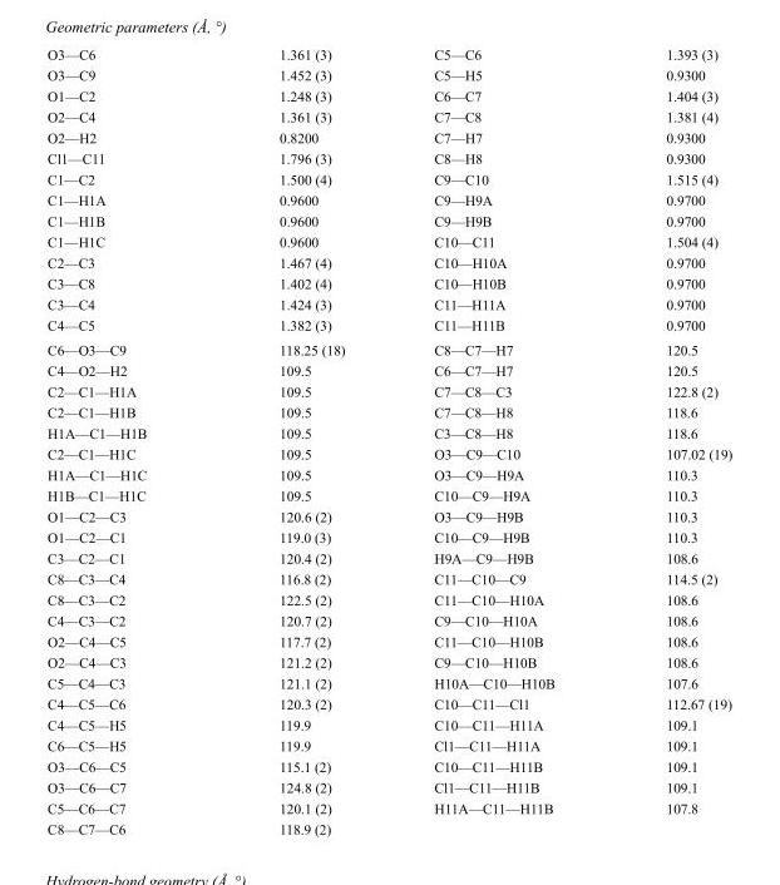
<table><tbody><tr><td>O3—C6</td><td>1.361 (3)</td><td>C5—C6</td><td>1.393 (3)</td></tr><tr><td>O3—C9</td><td>1.452 (3)</td><td>C5—H5</td><td>0.9300</td></tr><tr><td>O1—C2</td><td>1.248 (3)</td><td>C6—C7</td><td>1.404 (3)</td></tr><tr><td>O2—C4</td><td>1.361 (3)</td><td>C7—C8</td><td>1.381 (4)</td></tr><tr><td>O2—H2</td><td>0.8200</td><td>C7—H7</td><td>0.9300</td></tr><tr><td>Cl1—C11</td><td>1.796 (3)</td><td>C8—H8</td><td>0.9300</td></tr><tr><td>C1—C2</td><td>1.500 (4)</td><td>C9—C10</td><td>1.515 (4)</td></tr><tr><td>C1—H1A</td><td>0.9600</td><td>C9—H9A</td><td>0.9700</td></tr><tr><td>C1—H1B</td><td>0.9600</td><td>C9—H9B</td><td>0.9700</td></tr><tr><td>C1—H1C</td><td>0.9600</td><td>C10—C11</td><td>1.504 (4)</td></tr><tr><td>C2—C3</td><td>1.467 (4)</td><td>C10—H10A</td><td>0.9700</td></tr><tr><td>C3—C8</td><td>1.402 (4)</td><td>C10—H10B</td><td>0.9700</td></tr><tr><td>C3—C4</td><td>1.424 (3)</td><td>C11—H11A</td><td>0.9700</td></tr><tr><td>C4—C5</td><td>1.382 (3)</td><td>C11—H11B</td><td>0.9700</td></tr><tr><td>C6—O3—C9</td><td>118.25 (18)</td><td>C8—C7—H7</td><td>120.5</td></tr><tr><td>C4—O2—H2</td><td>109.5</td><td>C6—C7—H7</td><td>120.5</td></tr><tr><td>C2—C1—H1A</td><td>109.5</td><td>C7—C8—C3</td><td>122.8 (2)</td></tr><tr><td>C2—C1—H1B</td><td>109.5</td><td>C7—C8—H8</td><td>118.6</td></tr><tr><td>H1A—C1—H1B</td><td>109.5</td><td>C3—C8—H8</td><td>118.6</td></tr><tr><td>C2—C1—H1C</td><td>109.5</td><td>O3—C9—C10</td><td>107.02 (19)</td></tr><tr><td>H1A—C1—H1C</td><td>109.5</td><td>O3—C9—H9A</td><td>110.3</td></tr><tr><td>H1B—C1—H1C</td><td>109.5</td><td>C10—C9—H9A</td><td>110.3</td></tr><tr><td>O1—C2—C3</td><td>120.6 (2)</td><td>O3—C9—H9B</td><td>110.3</td></tr><tr><td>O1—C2—C1</td><td>119.0 (3)</td><td>C10—C9—H9B</td><td>110.3</td></tr><tr><td>C3—C2—C1</td><td>120.4 (2)</td><td>H9A—C9—H9B</td><td>108.6</td></tr><tr><td>C8—C3—C4</td><td>116.8 (2)</td><td>C11—C10—C9</td><td>114.5 (2)</td></tr><tr><td>C8—C3—C2</td><td>122.5 (2)</td><td>C11—C10—H10A</td><td>108.6</td></tr><tr><td>C4—C3—C2</td><td>120.7 (2)</td><td>C9—C10—H10A</td><td>108.6</td></tr><tr><td>O2—C4—C5</td><td>117.7 (2)</td><td>C11—C10—H10B</td><td>108.6</td></tr><tr><td>O2—C4—C3</td><td>121.2 (2)</td><td>C9—C10—H10B</td><td>108.6</td></tr><tr><td>C5—C4—C3</td><td>121.1 (2)</td><td>H10A—C10—H10B</td><td>107.6</td></tr><tr><td>C4—C5—C6</td><td>120.3 (2)</td><td>C10—C11—Cl1</td><td>112.67 (19)</td></tr><tr><td>C4—C5—H5</td><td>119.9</td><td>C10—C11—H11A</td><td>109.1</td></tr><tr><td>C6—C5—H5</td><td>119.9</td><td>Cl1—C11—H11A</td><td>109.1</td></tr><tr><td>O3—C6—C5</td><td>115.1 (2)</td><td>C10—C11—H11B</td><td>109.1</td></tr><tr><td>O3—C6—C7</td><td>124.8 (2)</td><td>Cl1—C11—H11B</td><td>109.1</td></tr><tr><td>C5—C6—C7</td><td>120.1 (2)</td><td>H11A—C11—H11B</td><td>107.8</td></tr><tr><td>C8—C7—C6</td><td>118.9 (2)</td><td></td><td></td></tr></tbody></table>